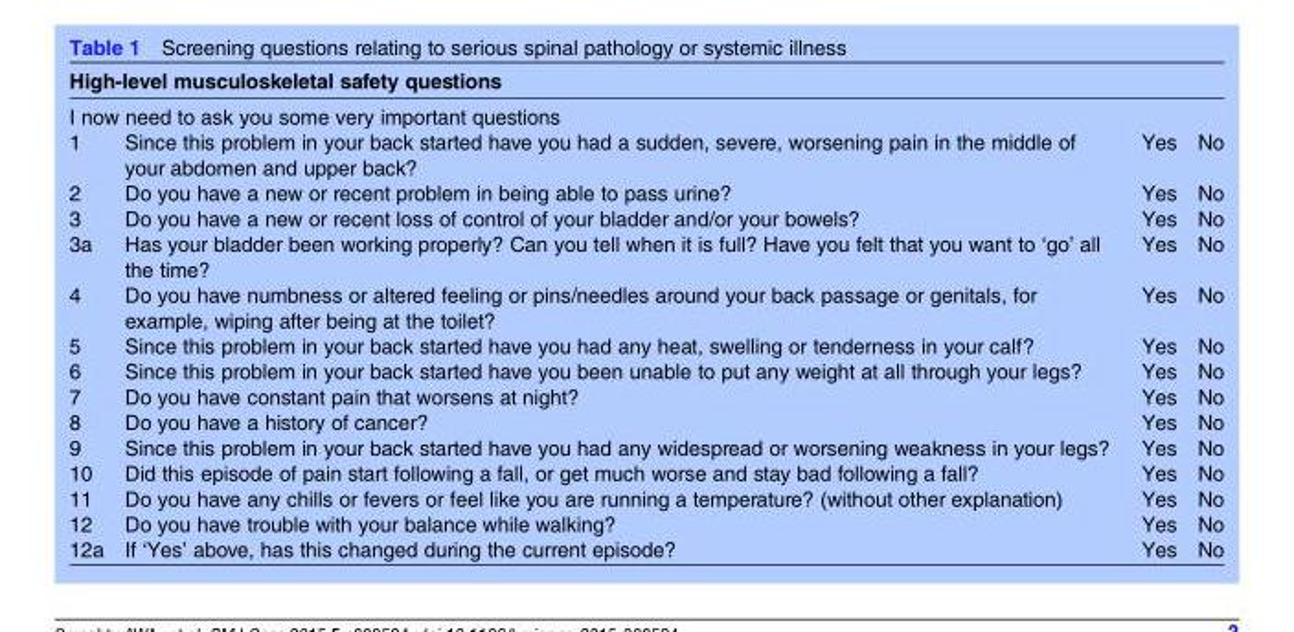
<table><thead><tr><td rowspan="2" colspan="4">High-level musculoskeletal safety questions I now need to ask you some very important questions</td></tr><tr></tr><tr><td>1</td><td>Since this problem in your back started have you had a sudden, severe, worsening pain in the middle of your abdomen and upper back?</td><td>Yes</td><td>No</td></tr></thead><tbody><tr><td>2</td><td>Do you have a new or recent problem in being able to pass urine?</td><td>Yes</td><td>No</td></tr><tr><td>3</td><td>Do you have a new or recent loss of control of your bladder and/or your bowels?</td><td>Yes</td><td>No</td></tr><tr><td>3a</td><td>Has your bladder been working properly? Can you tell when it is full? Have you felt that you want to ‘go’ all the time?</td><td>Yes</td><td>No</td></tr><tr><td>4</td><td>Do you have numbness or altered feeling or pins/needles around your back passage or genitals, for example, wiping after being at the toilet?</td><td>Yes</td><td>No</td></tr><tr><td>5</td><td>Since this problem in your back started have you had any heat, swelling or tenderness in your calf?</td><td>Yes</td><td>No</td></tr><tr><td>6</td><td>Since this problem in your back started have you been unable to put any weight at all through your legs?</td><td>Yes</td><td>No</td></tr><tr><td>7</td><td>Do you have constant pain that worsens at night?</td><td>Yes</td><td>No</td></tr><tr><td>8</td><td>Do you have a history of cancer?</td><td>Yes</td><td>No</td></tr><tr><td>9</td><td>Since this problem in your back started have you had any widespread or worsening weakness in your legs?</td><td>Yes</td><td>No</td></tr><tr><td>10</td><td>Did this episode of pain start following a fall, or get much worse and stay bad following a fall?</td><td>Yes</td><td>No</td></tr><tr><td>11</td><td>Do you have any chills or fevers or feel like you are running a temperature? (without other explanation)</td><td>Yes</td><td>No</td></tr><tr><td>12</td><td>Do you have trouble with your balance while walking?</td><td>Yes</td><td>No</td></tr><tr><td>12a</td><td>If ‘Yes’ above, has this changed during the current episode?</td><td>Yes</td><td>No</td></tr></tbody></table>